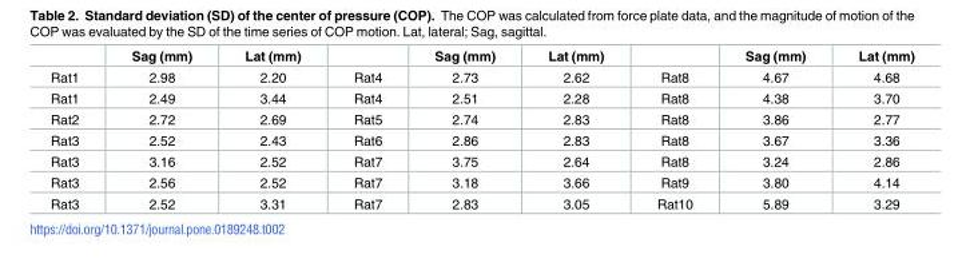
<table><thead><tr><td></td><td>Sag (mm)</td><td>Lat (mm)</td><td></td><td>Sag (mm)</td><td>Lat (mm)</td><td></td><td>Sag (mm)</td><td>Lat (mm)</td></tr></thead><tbody><tr><td>Rat1</td><td>2.98</td><td>2.20</td><td>Rat4</td><td>2.73</td><td>2.62</td><td>Rat8</td><td>4.67</td><td>4.68</td></tr><tr><td>Rat1</td><td>2.49</td><td>3.44</td><td>Rat4</td><td>2.51</td><td>2.28</td><td>Rat8</td><td>4.38</td><td>3.70</td></tr><tr><td>Rat2</td><td>2.72</td><td>2.69</td><td>Rat5</td><td>2.74</td><td>2.83</td><td>Rat8</td><td>3.86</td><td>2.77</td></tr><tr><td>Rat3</td><td>2.52</td><td>2.43</td><td>Rat6</td><td>2.86</td><td>2.83</td><td>Rat8</td><td>3.67</td><td>3.36</td></tr><tr><td>Rat3</td><td>3.16</td><td>2.52</td><td>Rat7</td><td>3.75</td><td>2.64</td><td>Rat8</td><td>3.24</td><td>2.86</td></tr><tr><td>Rat3</td><td>2.56</td><td>2.52</td><td>Rat7</td><td>3.18</td><td>3.66</td><td>Rat9</td><td>3.80</td><td>4.14</td></tr><tr><td>Rat3</td><td>2.52</td><td>3.31</td><td>Rat7</td><td>2.83</td><td>3.05</td><td>Rat10</td><td>5.89</td><td>3.29</td></tr></tbody></table>